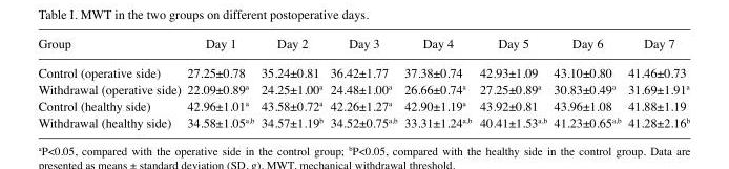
<table><thead><tr><td>Group</td><td>Day 1</td><td>Day 2</td><td>Day 3</td><td>Day 4</td><td>Day 5</td><td>Day 6</td><td>Day 7</td></tr></thead><tbody><tr><td>Control (operative side)</td><td>27.25±0.78</td><td>35.24±0.81</td><td>36.42±1.77</td><td>37.38±0.74</td><td>42.93±1.09</td><td>43.10±0.80</td><td>41.46±0.73</td></tr><tr><td>Withdrawal (operative side)</td><td>22.09±0.89<sup>a</sup></td><td>24.25±1.00<sup>a</sup></td><td>24.48±1.00<sup>a</sup></td><td>26.66±0.74<sup>a</sup></td><td>27.25±0.89<sup>a</sup></td><td>30.83±0.49<sup>a</sup></td><td>31.69±1.91<sup>a</sup></td></tr><tr><td>Control (healthy side)</td><td>42.96±1.01<sup>a</sup></td><td>43.58±0.72<sup>a</sup></td><td>42.26±1.27<sup>a</sup></td><td>42.90±1.19<sup>a</sup></td><td>43.92±0.81</td><td>43.96±1.08</td><td>41.88±1.19</td></tr><tr><td>Withdrawal (healthy side)</td><td>34.58±1.05<sup>a,b</sup></td><td>34.57±1.19<sup>b</sup></td><td>34.52±0.75<sup>a,b</sup></td><td>33.31±1.24<sup>a,b</sup></td><td>40.41±1.53<sup>a,b</sup></td><td>41.23±0.65<sup>a,b</sup></td><td>41.28±2.16<sup>b</sup></td></tr></tbody></table>